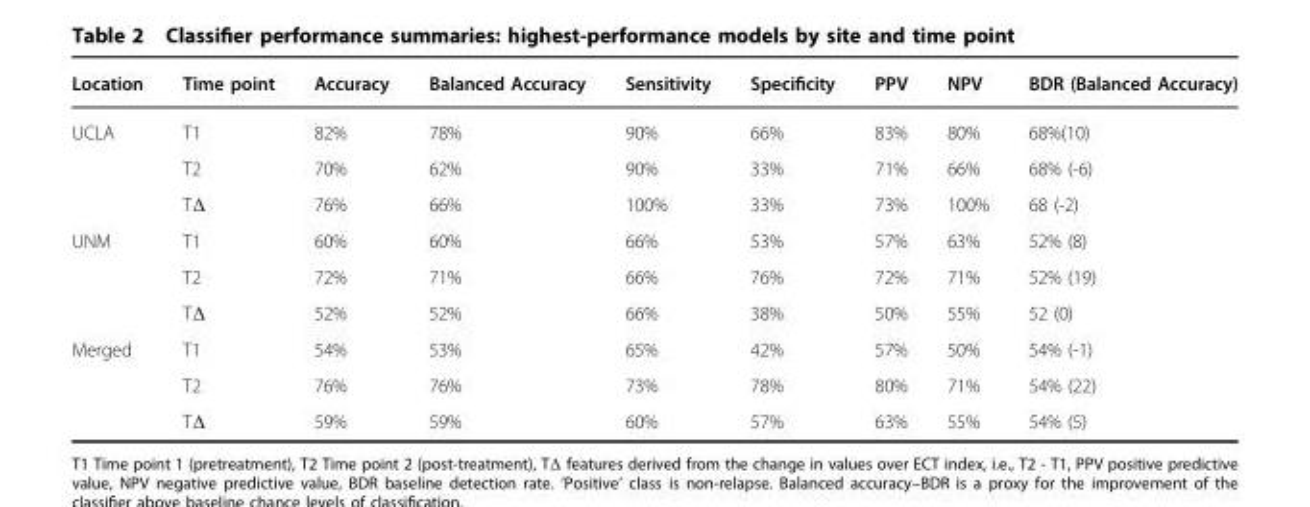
<table><thead><tr><td>Location</td><td>Time point</td><td>Accuracy</td><td>Balanced Accuracy</td><td>Sensitivity</td><td>Specificity</td><td>PPV</td><td>NPV</td><td>BDR (Balanced Accuracy)</td></tr></thead><tbody><tr><td rowspan="3">UCLA</td><td>T1</td><td>82%</td><td>78%</td><td>90%</td><td>66%</td><td>83%</td><td>80%</td><td>68%(10)</td></tr><tr><td>T2</td><td>70%</td><td>62%</td><td>90%</td><td>33%</td><td>71%</td><td>66%</td><td>68% (-6)</td></tr><tr><td>TΔ</td><td>76%</td><td>66%</td><td>100%</td><td>33%</td><td>73%</td><td>100%</td><td>68 (-2)</td></tr><tr><td rowspan="3">UNM</td><td>T1</td><td>60%</td><td>60%</td><td>66%</td><td>53%</td><td>57%</td><td>63%</td><td>52% (8)</td></tr><tr><td>T2</td><td>72%</td><td>71%</td><td>66%</td><td>76%</td><td>72%</td><td>71%</td><td>52% (19)</td></tr><tr><td>TΔ</td><td>52%</td><td>52%</td><td>66%</td><td>38%</td><td>50%</td><td>55%</td><td>52 (0)</td></tr><tr><td rowspan="3">Merged</td><td>T1</td><td>54%</td><td>53%</td><td>65%</td><td>42%</td><td>57%</td><td>50%</td><td>54% (-1)</td></tr><tr><td>T2</td><td>76%</td><td>76%</td><td>73%</td><td>78%</td><td>80%</td><td>71%</td><td>54% (22)</td></tr><tr><td>TΔ</td><td>59%</td><td>59%</td><td>60%</td><td>57%</td><td>63%</td><td>55%</td><td>54% (5)</td></tr></tbody></table>